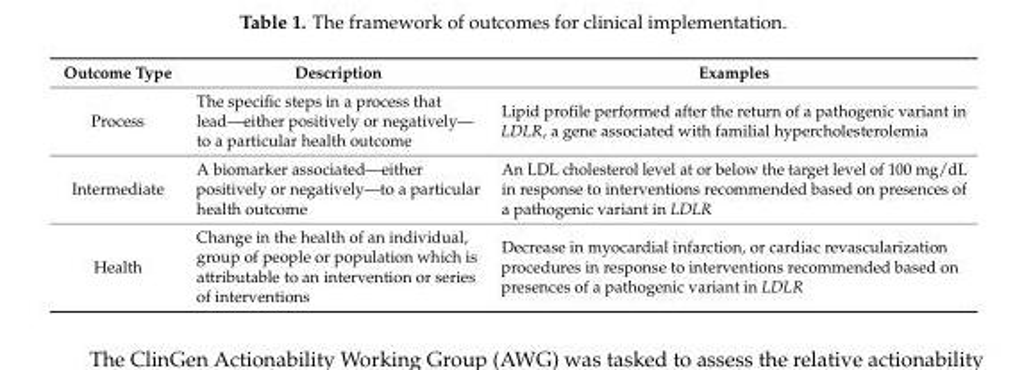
<table><thead><tr><td>Outcome Type</td><td>Description</td><td>Examples</td></tr></thead><tbody><tr><td>Process</td><td>The specific steps in a process that lead—either positively or negatively— to a particular health outcome</td><td>Lipid profile performed after the return of a pathogenic variant in LDLR, a gene associated with familial hypercholesterolemia</td></tr><tr><td>Intermediate</td><td>A biomarker associated—either positively or negatively—to a particular health outcome</td><td>An LDL cholesterol level at or below the target level of 100 mg/dL in response to interventions recommended based on presences of a pathogenic variant in LDLR</td></tr><tr><td>Health</td><td>Change in the health of an individual, group of people or population which is attributable to an intervention or series of interventions</td><td>Decrease in myocardial infarction, or cardiac revascularization procedures in response to interventions recommended based on presences of a pathogenic variant in LDLR</td></tr></tbody></table>